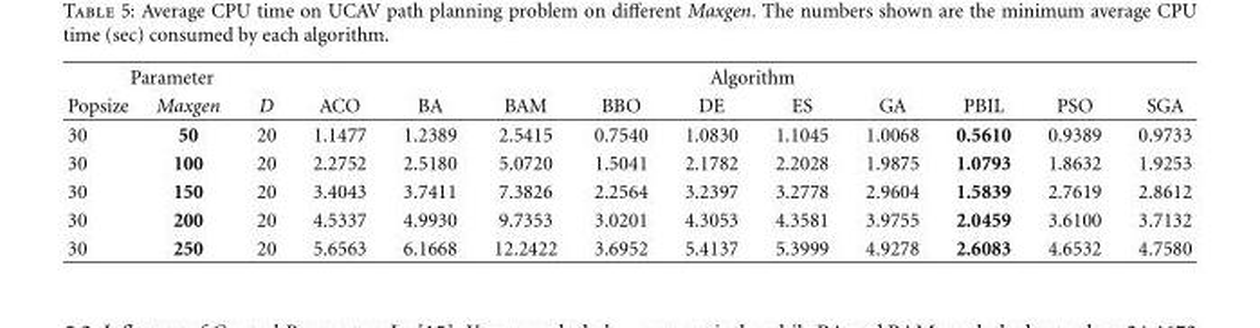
<table><thead><tr><td colspan="3">Parameter</td><td colspan="10">Algorithm</td></tr><tr><td>Popsize</td><td>Maxgen</td><td>D</td><td>ACO</td><td>BA</td><td>BAM</td><td>BBO</td><td>DE</td><td>ES</td><td>GA</td><td>PBIL</td><td>PSO</td><td>SGA</td></tr></thead><tbody><tr><td>30</td><td>50</td><td>20</td><td>1.1477</td><td>1.2389</td><td>2.5415</td><td>0.7540</td><td>1.0830</td><td>1.1045</td><td>1.0068</td><td>0.5610</td><td>0.9389</td><td>0.9733</td></tr><tr><td>30</td><td>100</td><td>20</td><td>2.2752</td><td>2.5180</td><td>5.0720</td><td>1.5041</td><td>2.1782</td><td>2.2028</td><td>1.9875</td><td>1.0793</td><td>1.8632</td><td>1.9253</td></tr><tr><td>30</td><td>150</td><td>20</td><td>3.4043</td><td>3.7411</td><td>7.3826</td><td>2.2564</td><td>3.2397</td><td>3.2778</td><td>2.9604</td><td>1.5839</td><td>2.7619</td><td>2.8612</td></tr><tr><td>30</td><td>200</td><td>20</td><td>4.5337</td><td>4.9930</td><td>9.7353</td><td>3.0201</td><td>4.3053</td><td>4.3581</td><td>3.9755</td><td>2.0459</td><td>3.6100</td><td>3.7132</td></tr><tr><td>30</td><td>250</td><td>20</td><td>5.6563</td><td>6.1668</td><td>12.2422</td><td>3.6952</td><td>5.4137</td><td>5.3999</td><td>4.9278</td><td>2.6083</td><td>4.6532</td><td>4.7580</td></tr></tbody></table>